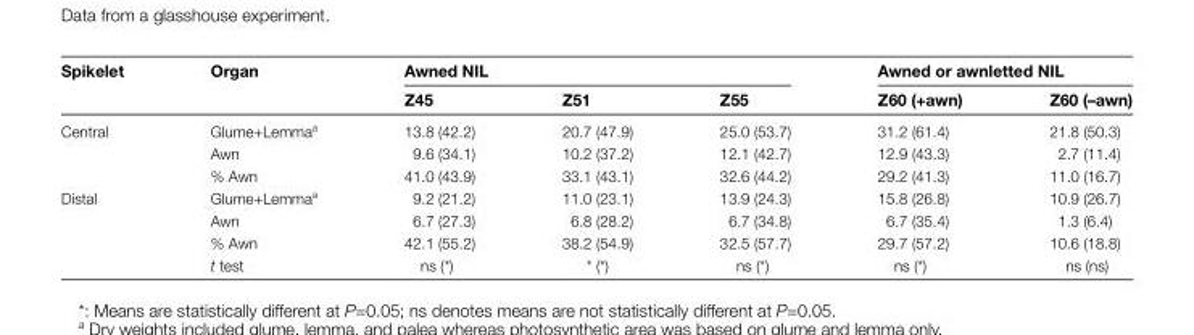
<table><thead><tr><td rowspan="2">Spikelet</td><td rowspan="2">Organ</td><td colspan="3">Awned NIL</td><td colspan="2">Awned or awnletted NIL</td></tr><tr><td>Z45</td><td>Z51</td><td>Z55</td><td>Z60 (+awn)</td><td>Z60 (–awn)</td></tr></thead><tbody><tr><td rowspan="3">Central</td><td>Glume+Lemma<sup>a</sup></td><td>13.8 (42.2)</td><td>20.7 (47.9)</td><td>25.0 (53.7)</td><td>31.2 (61.4)</td><td>21.8 (50.3)</td></tr><tr><td>Awn</td><td>9.6 (34.1)</td><td>10.2 (37.2)</td><td>12.1 (42.7)</td><td>12.9 (43.3)</td><td>2.7 (11.4)</td></tr><tr><td>% Awn</td><td>41.0 (43.9)</td><td>33.1 (43.1)</td><td>32.6 (44.2)</td><td>29.2 (41.3)</td><td>11.0 (16.7)</td></tr><tr><td rowspan="4">Distal</td><td>Glume+Lemma<sup>a</sup></td><td>9.2 (21.2)</td><td>11.0 (23.1)</td><td>13.9 (24.3)</td><td>15.8 (26.8)</td><td>10.9 (26.7)</td></tr><tr><td>Awn</td><td>6.7 (27.3)</td><td>6.8 (28.2)</td><td>6.7 (34.8)</td><td>6.7 (35.4)</td><td>1.3 (6.4)</td></tr><tr><td>% Awn</td><td>42.1 (55.2)</td><td>38.2 (54.9)</td><td>32.5 (57.7)</td><td>29.7 (57.2)</td><td>10.6 (18.8)</td></tr><tr><td>t test</td><td>ns (*)</td><td>* (*)</td><td>ns (*)</td><td>ns (*)</td><td>ns (ns)</td></tr></tbody></table>